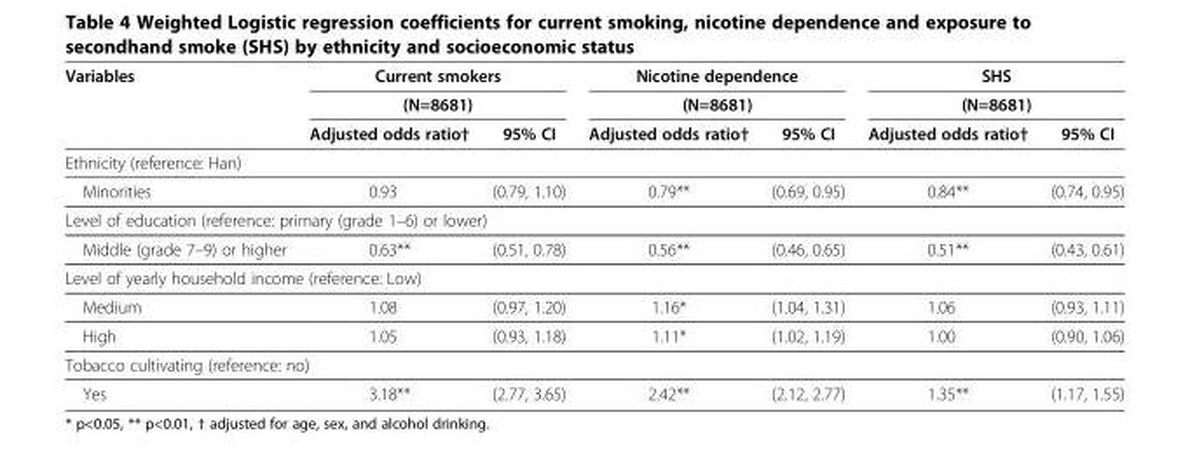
<table><thead><tr><td rowspan="3">Variables</td><td rowspan="2" colspan="2">Current smokers (N=8681)</td><td rowspan="2" colspan="2">Nicotine dependence (N=8681)</td><td rowspan="2" colspan="2">SHS (N=8681)</td></tr><tr></tr><tr><td>Adjusted odds ratio†</td><td>95% CI</td><td>Adjusted odds ratio†</td><td>95% CI</td><td>Adjusted odds ratio†</td><td>95% CI</td></tr></thead><tbody><tr><td colspan="7">Ethnicity (reference: Han)</td></tr><tr><td>Minorities</td><td>0.93</td><td>(0.79, 1.10)</td><td>0.79**</td><td>(0.69, 0.95)</td><td>0.84**</td><td>(0.74, 0.95)</td></tr><tr><td colspan="7">Level of education (reference: primary (grade 1–6) or lower)</td></tr><tr><td>Middle (grade 7–9) or higher</td><td>0.63**</td><td>(0.51, 0.78)</td><td>0.56**</td><td>(0.46, 0.65)</td><td>0.51**</td><td>(0.43, 0.61)</td></tr><tr><td colspan="7">Level of yearly household income (reference: Low)</td></tr><tr><td>Medium</td><td>1.08</td><td>(0.97, 1.20)</td><td>1.16*</td><td>(1.04, 1.31)</td><td>1.06</td><td>(0.93, 1.11)</td></tr><tr><td>High</td><td>1.05</td><td>(0.93, 1.18)</td><td>1.11*</td><td>(1.02, 1.19)</td><td>1.00</td><td>(0.90, 1.06)</td></tr><tr><td colspan="7">Tobacco cultivating (reference: no)</td></tr><tr><td>Yes</td><td>3.18**</td><td>(2.77, 3.65)</td><td>2.42**</td><td>(2.12, 2.77)</td><td>1.35**</td><td>(1.17, 1.55)</td></tr></tbody></table>